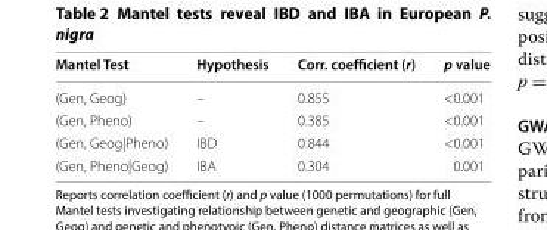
<table><thead><tr><td>Mantel Test</td><td>Hypothesis</td><td>Corr. coefficient (r)</td><td>p value</td></tr></thead><tbody><tr><td>(Gen, Geog)</td><td>–</td><td>0.855</td><td>&lt;0.001</td></tr><tr><td>(Gen, Pheno)</td><td>–</td><td>0.385</td><td>&lt;0.001</td></tr><tr><td>(Gen, Geog|Pheno)</td><td>IBD</td><td>0.844</td><td>&lt;0.001</td></tr><tr><td>(Gen, Pheno|Geog)</td><td>IBA</td><td>0.304</td><td>0.001</td></tr></tbody></table>